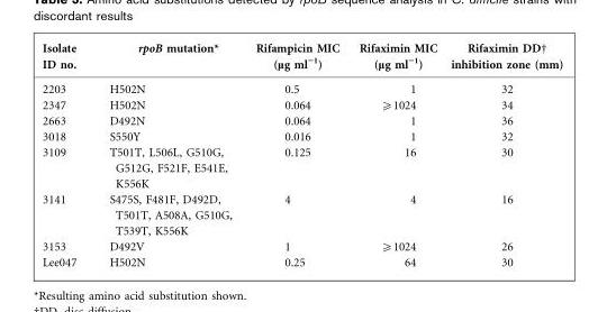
<table><thead><tr><td>Isolate ID no.</td><td>rpoB mutation*</td><td>Rifampicin MIC (mg ml”1)</td><td>Rifaximin MIC (mg ml”1)</td><td>Rifaximin DD† inhibition zone (mm)</td></tr></thead><tbody><tr><td>2203</td><td>H502N</td><td>0.5</td><td>1</td><td>32</td></tr><tr><td>2347</td><td>H502N</td><td>0.064</td><td>≥1024</td><td>34</td></tr><tr><td>2663</td><td>D492N</td><td>0.064</td><td>1</td><td>36</td></tr><tr><td>3018</td><td>S550Y</td><td>0.016</td><td>1</td><td>32</td></tr><tr><td>3109</td><td>T501T, L506L, G510G, G512G, F521F, E541E, K556K</td><td>0.125</td><td>16</td><td>30</td></tr><tr><td>3141</td><td>S475S, F481F, D492D, T501T, A508A, G510G, T539T, K556K</td><td>4</td><td>4</td><td>16</td></tr><tr><td>3153</td><td>D492V</td><td>1</td><td>≥1024</td><td>26</td></tr><tr><td>Lee047</td><td>H502N</td><td>0.25</td><td>64</td><td>30</td></tr></tbody></table>